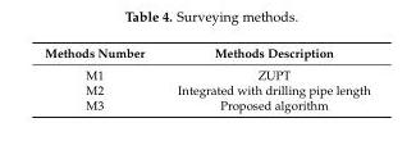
<table><thead><tr><td>Methods Number</td><td>Methods Description</td></tr></thead><tbody><tr><td>M1</td><td>ZUPT</td></tr><tr><td>M2</td><td>Integrated with drilling pipe length</td></tr><tr><td>M3</td><td>Proposed algorithm</td></tr></tbody></table>